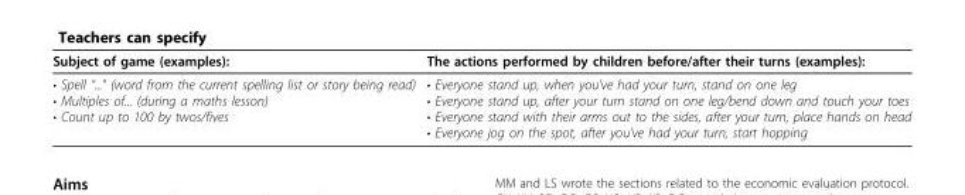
<table><thead><tr><td>Subject of game (examples):</td><td>The actions performed by children before/after their turns (examples):</td></tr></thead><tbody><tr><td>• Spell “...” (word from the current spelling list or story being read) • Multiples of... (during a maths lesson) • Count up to 100 by twos/fives</td><td>• Everyone stand up, when you’ve had your turn, stand on one leg • Everyone stand up, after your turn stand on one leg/bend down and touch your toes • Everyone stand with their arms out to the sides, after your turn, place hands on head • Everyone jog on the spot, after you’ve had your turn, start hopping</td></tr></tbody></table>